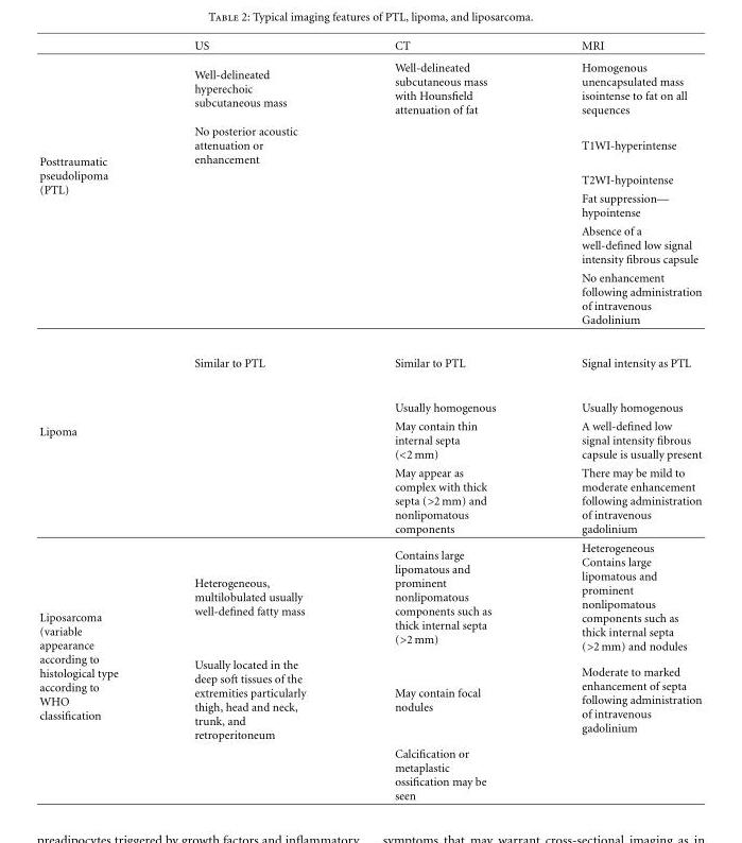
<table><thead><tr><td></td><td>US</td><td>CT</td><td>MRI</td></tr></thead><tbody><tr><td rowspan="6">Posttraumatic pseudolipoma (PTL)</td><td>Well-delineated hyperechoic subcutaneous mass</td><td>Well-delineated subcutaneous mass with Hounsfield attenuation of fat</td><td>Homogenous unencapsulated mass isointense to fat on all sequences</td></tr><tr><td>No posterior acoustic attenuation or enhancement</td><td></td><td>T1WI-hyperintense</td></tr><tr><td></td><td></td><td>T2WI-hypointense</td></tr><tr><td></td><td></td><td>Fat suppression— hypointense</td></tr><tr><td></td><td></td><td>Absence of a well-defined low signal intensity fibrous capsule</td></tr><tr><td></td><td></td><td>No enhancement following administration of intravenous Gadolinium</td></tr><tr><td rowspan="4">Lipoma</td><td>Similar to PTL</td><td>Similar to PTL</td><td>Signal intensity as PTL</td></tr><tr><td></td><td>Usually homogenous</td><td>Usually homogenous</td></tr><tr><td></td><td>May contain thin internal septa (&lt;2 mm)</td><td>A well-defined low signal intensity fibrous capsule is usually present</td></tr><tr><td></td><td>May appear as complex with thick septa (&gt;2 mm) and nonlipomatous components</td><td>There may be mild to moderate enhancement following administration of intravenous gadolinium</td></tr><tr><td rowspan="3">Liposarcoma (variable appearance according to histological type according to WHO classification</td><td>Heterogeneous, multilobulated usually well-defined fatty mass</td><td>Contains large lipomatous and prominent nonlipomatous components such as thick internal septa (&gt;2 mm)</td><td>Heterogeneous Contains large lipomatous and prominent nonlipomatous components such as thick internal septa (&gt;2 mm) and nodules</td></tr><tr><td>Usually located in the deep soft tissues of the extremities particularly thigh, head and neck, trunk, and retroperitoneum</td><td>May contain focal nodules</td><td>Moderate to marked enhancement of septa following administration of intravenous gadolinium</td></tr><tr><td></td><td>Calcification or metaplastic ossification may be seen</td><td></td></tr></tbody></table>